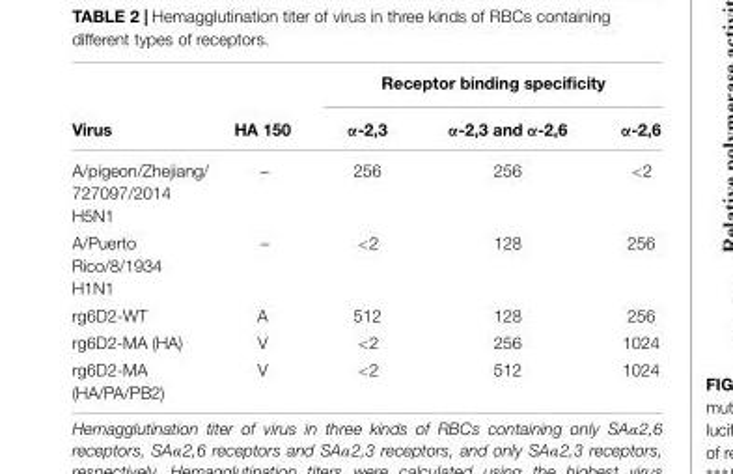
<table><thead><tr><td rowspan="2">Virus</td><td rowspan="2">HA 150</td><td colspan="3">Receptor binding specificity</td></tr><tr><td>α-2,3</td><td>α-2,3 and α-2,6</td><td>α-2,6</td></tr></thead><tbody><tr><td>A/pigeon/Zhejiang/ 727097/2014 H5N1</td><td>–</td><td>256</td><td>256</td><td>&lt;2</td></tr><tr><td>A/Puerto Rico/8/1934 H1N1</td><td>–</td><td>&lt;2</td><td>128</td><td>256</td></tr><tr><td>rg6D2-WT</td><td>A</td><td>512</td><td>128</td><td>256</td></tr><tr><td>rg6D2-MA (HA)</td><td>V</td><td>&lt;2</td><td>256</td><td>1024</td></tr><tr><td>rg6D2-MA (HA/PA/PB2)</td><td>V</td><td>&lt;2</td><td>512</td><td>1024</td></tr></tbody></table>